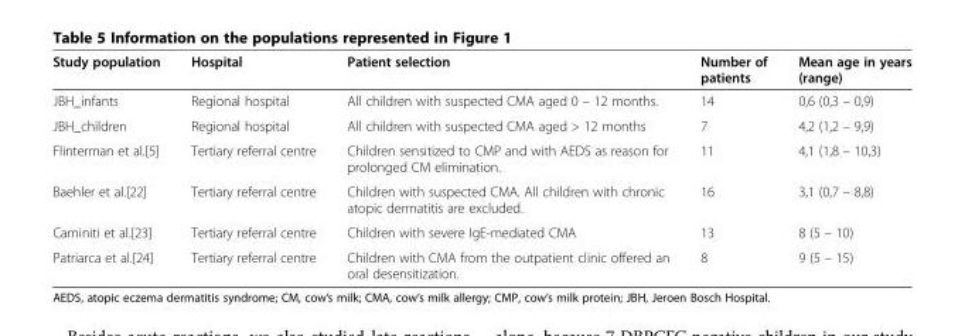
<table><thead><tr><td>Study population</td><td>Hospital</td><td>Patient selection</td><td>Number of patients</td><td>Mean age in years (range)</td></tr></thead><tbody><tr><td>JBH_infants</td><td>Regional hospital</td><td>All children with suspected CMA aged 0 – 12 months.</td><td>14</td><td>0,6 (0,3 – 0,9)</td></tr><tr><td>JBH_children</td><td>Regional hospital</td><td>All children with suspected CMA aged &gt; 12 months</td><td>7</td><td>4,2 (1,2 – 9,9)</td></tr><tr><td>Flinterman et al.[5]</td><td>Tertiary referral centre</td><td>Children sensitized to CMP and with AEDS as reason for prolonged CM elimination.</td><td>11</td><td>4,1 (1,8 – 10,3)</td></tr><tr><td>Baehler et al.[22]</td><td>Tertiary referral centre</td><td>Children with suspected CMA. All children with chronic atopic dermatitis are excluded.</td><td>16</td><td>3,1 (0,7 – 8,8)</td></tr><tr><td>Caminiti et al.[23]</td><td>Tertiary referral centre</td><td>Children with severe IgE-mediated CMA</td><td>13</td><td>8 (5 – 10)</td></tr><tr><td>Patriarca et al.[24]</td><td>Tertiary referral centre</td><td>Children with CMA from the outpatient clinic offered an oral desensitization.</td><td>8</td><td>9 (5 – 15)</td></tr></tbody></table>